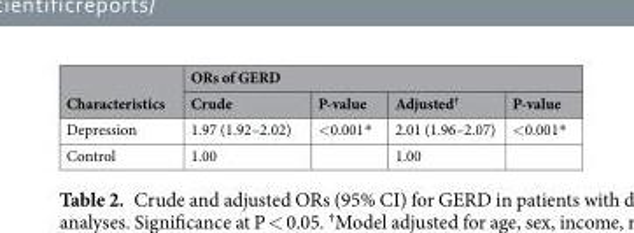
<table><thead><tr><td rowspan="2">Characteristics</td><td colspan="4">ORs of GERD</td></tr><tr><td>Crude</td><td>P-value</td><td>Adjusted<sup>†</sup></td><td>P-value</td></tr></thead><tbody><tr><td>Depression</td><td>1.97 (1.92–2.02)</td><td>&lt;0.001*</td><td>2.01 (1.96–2.07)</td><td>&lt;0.001*</td></tr><tr><td>Control</td><td>1.00</td><td></td><td>1.00</td><td></td></tr></tbody></table>